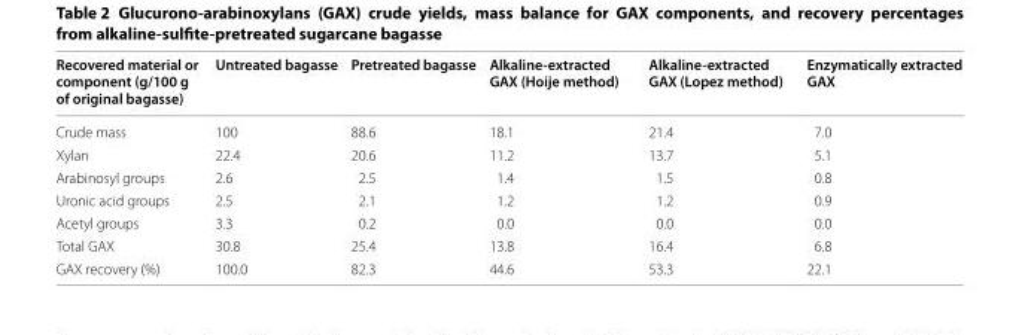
<table><thead><tr><td>Recovered material or component (g/100 g of original bagasse)</td><td>Untreated bagasse</td><td>Pretreated bagasse</td><td>Alkaline‑extracted GAX (Hoije method)</td><td>Alkaline‑extracted GAX (Lopez method)</td><td>Enzymatically extracted GAX</td></tr></thead><tbody><tr><td>Crude mass</td><td>100</td><td>88.6</td><td>18.1</td><td>21.4</td><td>7.0</td></tr><tr><td>Xylan</td><td>22.4</td><td>20.6</td><td>11.2</td><td>13.7</td><td>5.1</td></tr><tr><td>Arabinosyl groups</td><td>2.6</td><td>2.5</td><td>1.4</td><td>1.5</td><td>0.8</td></tr><tr><td>Uronic acid groups</td><td>2.5</td><td>2.1</td><td>1.2</td><td>1.2</td><td>0.9</td></tr><tr><td>Acetyl groups</td><td>3.3</td><td>0.2</td><td>0.0</td><td>0.0</td><td>0.0</td></tr><tr><td>Total GAX</td><td>30.8</td><td>25.4</td><td>13.8</td><td>16.4</td><td>6.8</td></tr><tr><td>GAX recovery (%)</td><td>100.0</td><td>82.3</td><td>44.6</td><td>53.3</td><td>22.1</td></tr></tbody></table>